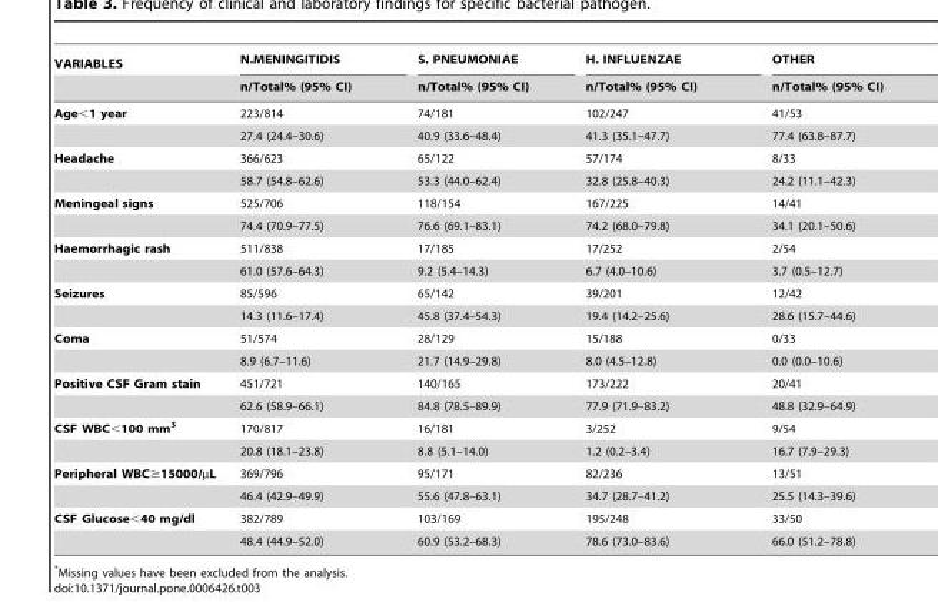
<table><thead><tr><td rowspan="2">VARIABLES</td><td rowspan="2">N.MENINGITIDIS n/Total% (95% CI)</td><td rowspan="2">S. PNEUMONIAE n/Total% (95% CI)</td><td rowspan="2">H. INFLUENZAE n/Total% (95% CI)</td><td rowspan="2">OTHER n/Total% (95% CI)</td></tr><tr></tr></thead><tbody><tr><td rowspan="2">Age&lt;1 year</td><td>223/814</td><td>74/181</td><td>102/247</td><td>41/53</td></tr><tr><td>27.4 (24.4–30.6)</td><td>40.9 (33.6–48.4)</td><td>41.3 (35.1–47.7)</td><td>77.4 (63.8–87.7)</td></tr><tr><td rowspan="2">Headache</td><td>366/623</td><td>65/122</td><td>57/174</td><td>8/33</td></tr><tr><td>58.7 (54.8–62.6)</td><td>53.3 (44.0–62.4)</td><td>32.8 (25.8–40.3)</td><td>24.2 (11.1–42.3)</td></tr><tr><td rowspan="2">Meningeal signs</td><td>525/706</td><td>118/154</td><td>167/225</td><td>14/41</td></tr><tr><td>74.4 (70.9–77.5)</td><td>76.6 (69.1–83.1)</td><td>74.2 (68.0–79.8)</td><td>34.1 (20.1–50.6)</td></tr><tr><td rowspan="2">Haemorrhagic rash</td><td>511/838</td><td>17/185</td><td>17/252</td><td>2/54</td></tr><tr><td>61.0 (57.6–64.3)</td><td>9.2 (5.4–14.3)</td><td>6.7 (4.0–10.6)</td><td>3.7 (0.5–12.7)</td></tr><tr><td rowspan="2">Seizures</td><td>85/596</td><td>65/142</td><td>39/201</td><td>12/42</td></tr><tr><td>14.3 (11.6–17.4)</td><td>45.8 (37.4–54.3)</td><td>19.4 (14.2–25.6)</td><td>28.6 (15.7–44.6)</td></tr><tr><td rowspan="2">Coma</td><td>51/574</td><td>28/129</td><td>15/188</td><td>0/33</td></tr><tr><td>8.9 (6.7–11.6)</td><td>21.7 (14.9–29.8)</td><td>8.0 (4.5–12.8)</td><td>0.0 (0.0–10.6)</td></tr><tr><td rowspan="2">Positive CSF Gram stain</td><td>451/721</td><td>140/165</td><td>173/222</td><td>20/41</td></tr><tr><td>62.6 (58.9–66.1)</td><td>84.8 (78.5–89.9)</td><td>77.9 (71.9–83.2)</td><td>48.8 (32.9–64.9)</td></tr><tr><td rowspan="2">CSF WBC&lt;100 mm<sup>3</sup></td><td>170/817</td><td>16/181</td><td>3/252</td><td>9/54</td></tr><tr><td>20.8 (18.1–23.8)</td><td>8.8 (5.1–14.0)</td><td>1.2 (0.2–3.4)</td><td>16.7 (7.9–29.3)</td></tr><tr><td rowspan="2">Peripheral WBC≥15000/µL</td><td>369/796</td><td>95/171</td><td>82/236</td><td>13/51</td></tr><tr><td>46.4 (42.9–49.9)</td><td>55.6 (47.8–63.1)</td><td>34.7 (28.7–41.2)</td><td>25.5 (14.3–39.6)</td></tr><tr><td rowspan="2">CSF Glucose&lt;40 mg/dl</td><td>382/789</td><td>103/169</td><td>195/248</td><td>33/50</td></tr><tr><td>48.4 (44.9–52.0)</td><td>60.9 (53.2–68.3)</td><td>78.6 (73.0–83.6)</td><td>66.0 (51.2–78.8)</td></tr></tbody></table>